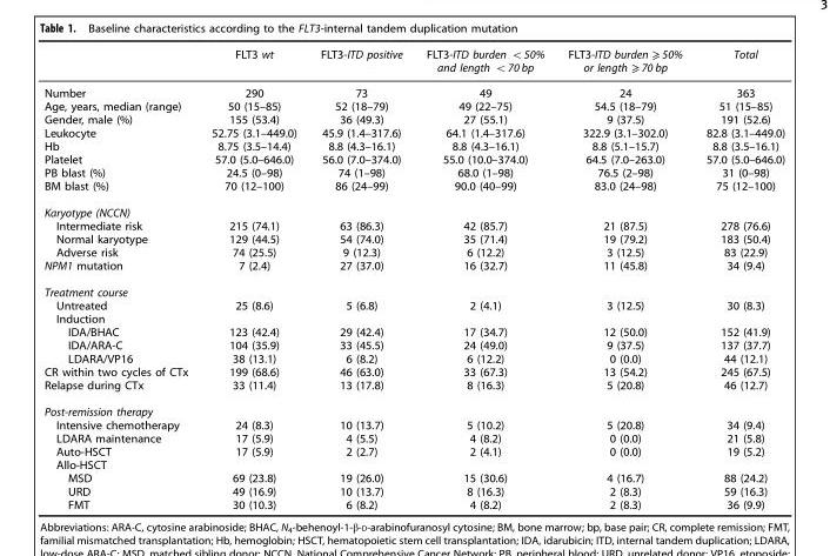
<table><thead><tr><td></td><td>FLT3 wt</td><td>FLT3-ITD positive</td><td>FLT3-ITD burden &lt;50% and length &lt;70 bp</td><td>FLT3-ITD burden ⩾ 50% or length ⩾ 70 bp</td><td>Total</td></tr></thead><tbody><tr><td>Number</td><td>290</td><td>73</td><td>49</td><td>24</td><td>363</td></tr><tr><td>Age, years, median (range)</td><td>50 (15–85)</td><td>52 (18–79)</td><td>49 (22–75)</td><td>54.5 (18–79)</td><td>51 (15–85)</td></tr><tr><td>Gender, male (%)</td><td>155 (53.4)</td><td>36 (49.3)</td><td>27 (55.1)</td><td>9 (37.5)</td><td>191 (52.6)</td></tr><tr><td>Leukocyte</td><td>52.75 (3.1–449.0)</td><td>45.9 (1.4–317.6)</td><td>64.1 (1.4–317.6)</td><td>322.9 (3.1–302.0)</td><td>82.8 (3.1–449.0)</td></tr><tr><td>Hb</td><td>8.75 (3.5–14.4)</td><td>8.8 (4.3–16.1)</td><td>8.8 (4.3–16.1)</td><td>8.8 (5.1–15.7)</td><td>8.8 (3.5–16.1)</td></tr><tr><td>Platelet</td><td>57.0 (5.0–646.0)</td><td>56.0 (7.0–374.0)</td><td>55.0 (10.0–374.0)</td><td>64.5 (7.0–263.0)</td><td>57.0 (5.0–646.0)</td></tr><tr><td>PB blast (%)</td><td>24.5 (0–98)</td><td>74 (1–98)</td><td>68.0 (1–98)</td><td>76.5 (2–98)</td><td>31 (0–98)</td></tr><tr><td>BM blast (%)</td><td>70 (12–100)</td><td>86 (24–99)</td><td>90.0 (40–99)</td><td>83.0 (24–98)</td><td>75 (12–100)</td></tr><tr><td colspan="6">Karyotype (NCCN)</td></tr><tr><td>Intermediate risk</td><td>215 (74.1)</td><td>63 (86.3)</td><td>42 (85.7)</td><td>21 (87.5)</td><td>278 (76.6)</td></tr><tr><td>Normal karyotype</td><td>129 (44.5)</td><td>54 (74.0)</td><td>35 (71.4)</td><td>19 (79.2)</td><td>183 (50.4)</td></tr><tr><td>Adverse risk</td><td>74 (25.5)</td><td>9 (12.3)</td><td>6 (12.2)</td><td>3 (12.5)</td><td>83 (22.9)</td></tr><tr><td>NPM1 mutation</td><td>7 (2.4)</td><td>27 (37.0)</td><td>16 (32.7)</td><td>11 (45.8)</td><td>34 (9.4)</td></tr><tr><td colspan="6">Treatment course</td></tr><tr><td>Untreated</td><td>25 (8.6)</td><td>5 (6.8)</td><td>2 (4.1)</td><td>3 (12.5)</td><td>30 (8.3)</td></tr><tr><td colspan="6">Induction</td></tr><tr><td>IDA/BHAC</td><td>123 (42.4)</td><td>29 (42.4)</td><td>17 (34.7)</td><td>12 (50.0)</td><td>152 (41.9)</td></tr><tr><td>IDA/ARA-C</td><td>104 (35.9)</td><td>33 (45.5)</td><td>24 (49.0)</td><td>9 (37.5)</td><td>137 (37.7)</td></tr><tr><td>LDARA/VP16</td><td>38 (13.1)</td><td>6 (8.2)</td><td>6 (12.2)</td><td>0 (0.0)</td><td>44 (12.1)</td></tr><tr><td>CR within two cycles of CTx</td><td>199 (68.6)</td><td>46 (63.0)</td><td>33 (67.3)</td><td>13 (54.2)</td><td>245 (67.5)</td></tr><tr><td>Relapse during CTx</td><td>33 (11.4)</td><td>13 (17.8)</td><td>8 (16.3)</td><td>5 (20.8)</td><td>46 (12.7)</td></tr><tr><td colspan="6">Post-remission therapy</td></tr><tr><td>Intensive chemotherapy</td><td>24 (8.3)</td><td>10 (13.7)</td><td>5 (10.2)</td><td>5 (20.8)</td><td>34 (9.4)</td></tr><tr><td>LDARA maintenance</td><td>17 (5.9)</td><td>4 (5.5)</td><td>4 (8.2)</td><td>0 (0.0)</td><td>21 (5.8)</td></tr><tr><td>Auto-HSCT</td><td>17 (5.9)</td><td>2 (2.7)</td><td>2 (4.1)</td><td>0 (0.0)</td><td>19 (5.2)</td></tr><tr><td colspan="6">Allo-HSCT</td></tr><tr><td>MSD</td><td>69 (23.8)</td><td>19 (26.0)</td><td>15 (30.6)</td><td>4 (16.7)</td><td>88 (24.2)</td></tr><tr><td>URD</td><td>49 (16.9)</td><td>10 (13.7)</td><td>8 (16.3)</td><td>2 (8.3)</td><td>59 (16.3)</td></tr><tr><td>FMT</td><td>30 (10.3)</td><td>6 (8.2)</td><td>4 (8.2)</td><td>2 (8.3)</td><td>36 (9.9)</td></tr></tbody></table>